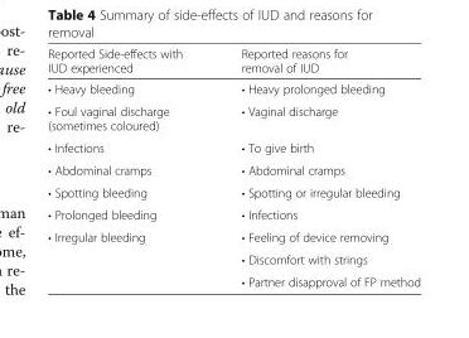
<table><thead><tr><td>Reported Side-effects with IUD experienced</td><td>Reported reasons for removal of IUD</td></tr></thead><tbody><tr><td>• Heavy bleeding</td><td>• Heavy prolonged bleeding</td></tr><tr><td>• Foul vaginal discharge (sometimes coloured)</td><td>• Vaginal discharge</td></tr><tr><td>• Infections</td><td>• To give birth</td></tr><tr><td>• Abdominal cramps</td><td>• Abdominal cramps</td></tr><tr><td>• Spotting bleeding</td><td>• Spotting or irregular bleeding</td></tr><tr><td>• Prolonged bleeding</td><td>• Infections</td></tr><tr><td rowspan="3">• Irregular bleeding</td><td>• Feeling of device removing</td></tr><tr><td>• Discomfort with strings</td></tr><tr><td>• Partner disapproval of FP method</td></tr></tbody></table>